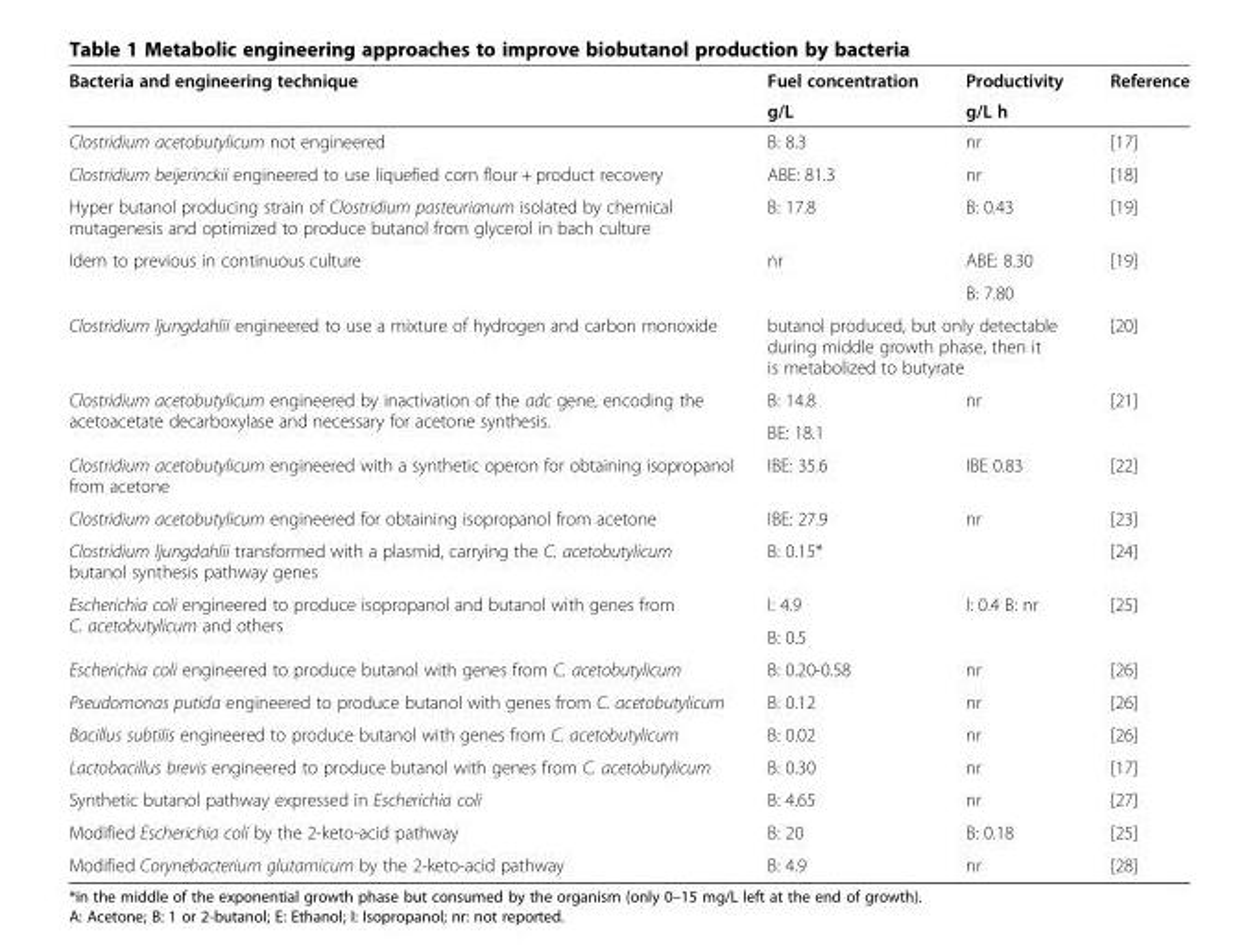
<table><thead><tr><td rowspan="2">Bacteria and engineering technique</td><td rowspan="2">Fuel concentration g/L</td><td rowspan="2">Productivity g/L h</td><td rowspan="2">Reference</td></tr><tr></tr></thead><tbody><tr><td>Clostridium acetobutylicum not engineered</td><td>B: 8.3</td><td>nr</td><td>[17]</td></tr><tr><td>Clostridium beijerinckii engineered to use liquefied corn flour + product recovery</td><td>ABE: 81.3</td><td>nr</td><td>[18]</td></tr><tr><td>Hyper butanol producing strain of Clostridium pasteurianum isolated by chemical mutagenesis and optimized to produce butanol from glycerol in bach culture</td><td>B: 17.8</td><td>B: 0.43</td><td>[19]</td></tr><tr><td rowspan="2">Idem to previous in continuous culture</td><td rowspan="2">nr</td><td>ABE: 8.30</td><td rowspan="2">[19]</td></tr><tr><td>B: 7.80</td></tr><tr><td>Clostridium ljungdahlii engineered to use a mixture of hydrogen and carbon monoxide</td><td colspan="2">butanol produced, but only detectable during middle growth phase, then it is metabolized to butyrate</td><td>[20]</td></tr><tr><td rowspan="2">Clostridium acetobutylicum engineered by inactivation of the adc gene, encoding the acetoacetate decarboxylase and necessary for acetone synthesis.</td><td>B: 14.8</td><td rowspan="2">nr</td><td rowspan="2">[21]</td></tr><tr><td>BE: 18.1</td></tr><tr><td>Clostridium acetobutylicum engineered with a synthetic operon for obtaining isopropanol from acetone</td><td>IBE: 35.6</td><td>IBE 0.83</td><td>[22]</td></tr><tr><td>Clostridium acetobutylicum engineered for obtaining isopropanol from acetone</td><td>IBE: 27.9</td><td>nr</td><td>[23]</td></tr><tr><td>Clostridium ljungdahlii transformed with a plasmid, carrying the C. acetobutylicum butanol synthesis pathway genes</td><td colspan="2">B: 0.15*</td><td>[24]</td></tr><tr><td rowspan="2">Escherichia coli engineered to produce isopropanol and butanol with genes from C. acetobutylicum and others</td><td>I: 4.9</td><td rowspan="2">I: 0.4 B: nr</td><td rowspan="2">[25]</td></tr><tr><td>B: 0.5</td></tr><tr><td>Escherichia coli engineered to produce butanol with genes from C. acetobutylicum</td><td>B: 0.20-0.58</td><td>nr</td><td>[26]</td></tr><tr><td>Pseudomonas putida engineered to produce butanol with genes from C. acetobutylicum</td><td>B: 0.12</td><td>nr</td><td>[26]</td></tr><tr><td>Bacillus subtilis engineered to produce butanol with genes from C. acetobutylicum</td><td>B: 0.02</td><td>nr</td><td>[26]</td></tr><tr><td>Lactobacillus brevis engineered to produce butanol with genes from C. acetobutylicum</td><td>B: 0.30</td><td>nr</td><td>[17]</td></tr><tr><td>Synthetic butanol pathway expressed in Escherichia coli</td><td>B: 4.65</td><td>nr</td><td>[27]</td></tr><tr><td>Modified Escherichia coli by the 2-keto-acid pathway</td><td>B: 20</td><td>B: 0.18</td><td>[25]</td></tr><tr><td>Modified Corynebacterium glutamicum by the 2-keto-acid pathway</td><td>B: 4.9</td><td>nr</td><td>[28]</td></tr></tbody></table>